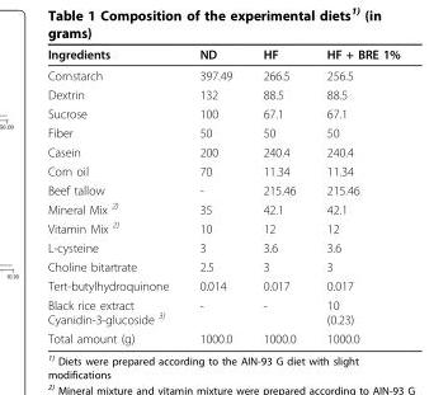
<table><thead><tr><td>Ingredients</td><td>ND</td><td>HF</td><td>HF + BRE 1%</td></tr></thead><tbody><tr><td>Cornstarch</td><td>397.49</td><td>266.5</td><td>256.5</td></tr><tr><td>Dextrin</td><td>132</td><td>88.5</td><td>88.5</td></tr><tr><td>Sucrose</td><td>100</td><td>67.1</td><td>67.1</td></tr><tr><td>Fiber</td><td>50</td><td>50</td><td>50</td></tr><tr><td>Casein</td><td>200</td><td>240.4</td><td>240.4</td></tr><tr><td>Corn oil</td><td>70</td><td>11.34</td><td>11.34</td></tr><tr><td>Beef tallow</td><td>-</td><td>215.46</td><td>215.46</td></tr><tr><td>Mineral Mix <sup>2)</sup></td><td>35</td><td>42.1</td><td>42.1</td></tr><tr><td>Vitamin Mix <sup>2)</sup></td><td>10</td><td>12</td><td>12</td></tr><tr><td>L-cysteine</td><td>3</td><td>3.6</td><td>3.6</td></tr><tr><td>Choline bitartrate</td><td>2.5</td><td>3</td><td>3</td></tr><tr><td>Tert-butylhydroquinone</td><td>0.014</td><td>0.017</td><td>0.017</td></tr><tr><td>Black rice extract Cyanidin-3-glucoside <sup>3)</sup></td><td>-</td><td>-</td><td>10 (0.23)</td></tr><tr><td>Total amount (g)</td><td>1000.0</td><td>1000.0</td><td>1000.0</td></tr></tbody></table>